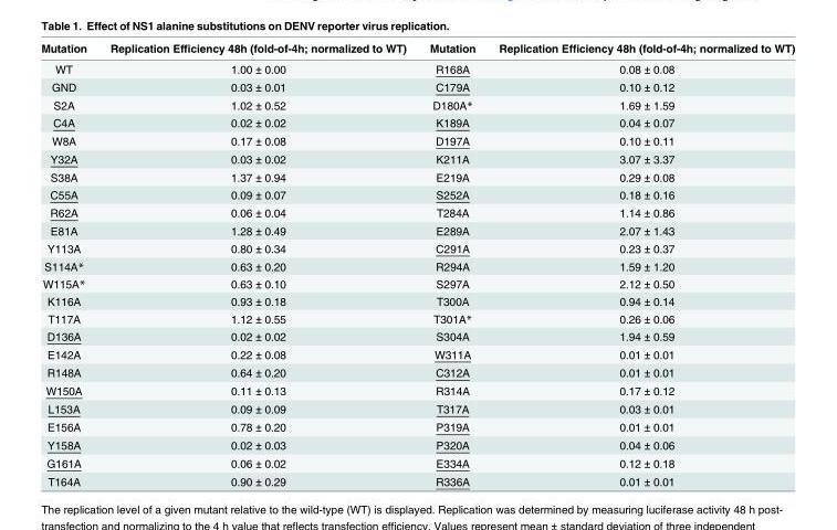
<table><thead><tr><td>Mutation</td><td>Replication Efficiency 48h (fold-of-4h; normalized to WT)</td><td>Mutation</td><td>Replication Efficiency 48h (fold-of-4h; normalized to WT)</td></tr></thead><tbody><tr><td>WT</td><td>1.00 ± 0.00</td><td>R168A</td><td>0.08 ± 0.08</td></tr><tr><td>GND</td><td>0.03 ± 0.01</td><td>C179A</td><td>0.10 ± 0.12</td></tr><tr><td>S2A</td><td>1.02 ± 0.52</td><td>D180A*</td><td>1.69 ± 1.59</td></tr><tr><td>C4A</td><td>0.02 ± 0.02</td><td>K189A</td><td>0.04 ± 0.07</td></tr><tr><td>W8A</td><td>0.17 ± 0.08</td><td>D197A</td><td>0.10 ± 0.11</td></tr><tr><td>Y32A</td><td>0.03 ± 0.02</td><td>K211A</td><td>3.07 ± 3.37</td></tr><tr><td>S38A</td><td>1.37 ± 0.94</td><td>E219A</td><td>0.29 ± 0.08</td></tr><tr><td>C55A</td><td>0.09 ± 0.07</td><td>S252A</td><td>0.18 ± 0.16</td></tr><tr><td>R62A</td><td>0.06 ± 0.04</td><td>T284A</td><td>1.14 ± 0.86</td></tr><tr><td>E81A</td><td>1.28 ± 0.49</td><td>E289A</td><td>2.07 ± 1.43</td></tr><tr><td>Y113A</td><td>0.80 ± 0.34</td><td>C291A</td><td>0.23 ± 0.37</td></tr><tr><td>S114A*</td><td>0.63 ± 0.20</td><td>R294A</td><td>1.59 ± 1.20</td></tr><tr><td>W115A*</td><td>0.63 ± 0.10</td><td>S297A</td><td>2.12 ± 0.50</td></tr><tr><td>K116A</td><td>0.93 ± 0.18</td><td>T300A</td><td>0.94 ± 0.14</td></tr><tr><td>T117A</td><td>1.12 ± 0.55</td><td>T301A*</td><td>0.26 ± 0.06</td></tr><tr><td>D136A</td><td>0.02 ± 0.02</td><td>S304A</td><td>1.94 ± 0.59</td></tr><tr><td>E142A</td><td>0.22 ± 0.08</td><td>W311A</td><td>0.01 ± 0.01</td></tr><tr><td>R148A</td><td>0.64 ± 0.20</td><td>C312A</td><td>0.01 ± 0.01</td></tr><tr><td>W150A</td><td>0.11 ± 0.13</td><td>R314A</td><td>0.17 ± 0.12</td></tr><tr><td>L153A</td><td>0.09 ± 0.09</td><td>T317A</td><td>0.03 ± 0.01</td></tr><tr><td>E156A</td><td>0.78 ± 0.20</td><td>P319A</td><td>0.01 ± 0.01</td></tr><tr><td>Y158A</td><td>0.02 ± 0.03</td><td>P320A</td><td>0.04 ± 0.06</td></tr><tr><td>G161A</td><td>0.06 ± 0.02</td><td>E334A</td><td>0.12 ± 0.18</td></tr><tr><td>T164A</td><td>0.90 ± 0.29</td><td>R336A</td><td>0.01 ± 0.01</td></tr></tbody></table>